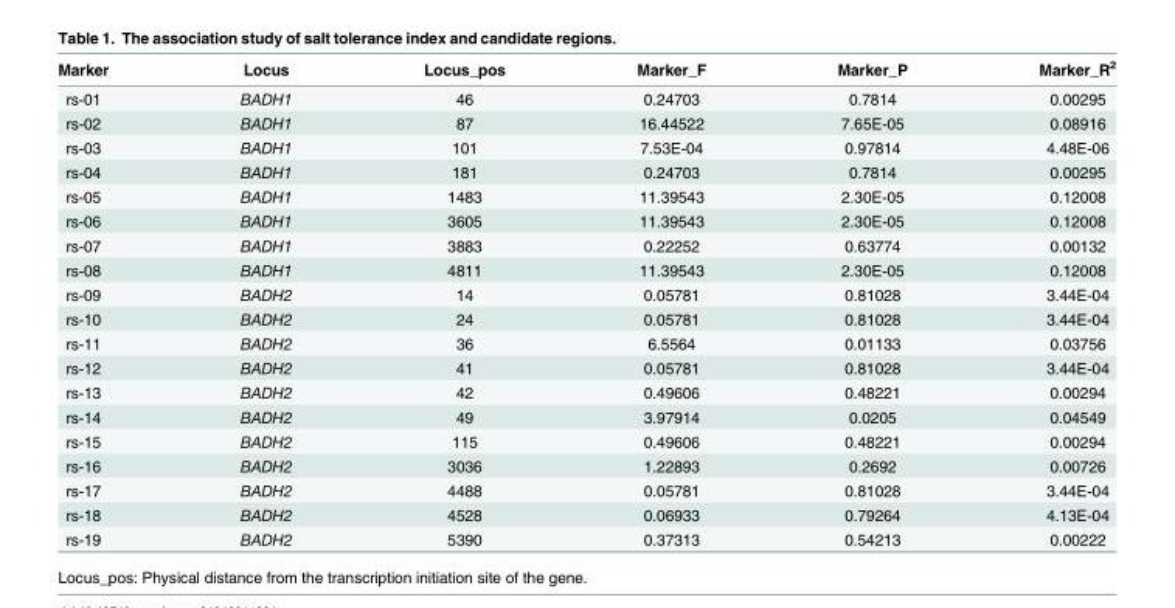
<table><thead><tr><td>Marker</td><td>Locus</td><td>Locus_pos</td><td>Marker_F</td><td>Marker_P</td><td>Marker_R<sup>2</sup></td></tr></thead><tbody><tr><td>rs-01</td><td>BADH1</td><td>46</td><td>0.24703</td><td>0.7814</td><td>0.00295</td></tr><tr><td>rs-02</td><td>BADH1</td><td>87</td><td>16.44522</td><td>7.65E-05</td><td>0.08916</td></tr><tr><td>rs-03</td><td>BADH1</td><td>101</td><td>7.53E-04</td><td>0.97814</td><td>4.48E-06</td></tr><tr><td>rs-04</td><td>BADH1</td><td>181</td><td>0.24703</td><td>0.7814</td><td>0.00295</td></tr><tr><td>rs-05</td><td>BADH1</td><td>1483</td><td>11.39543</td><td>2.30E-05</td><td>0.12008</td></tr><tr><td>rs-06</td><td>BADH1</td><td>3605</td><td>11.39543</td><td>2.30E-05</td><td>0.12008</td></tr><tr><td>rs-07</td><td>BADH1</td><td>3883</td><td>0.22252</td><td>0.63774</td><td>0.00132</td></tr><tr><td>rs-08</td><td>BADH1</td><td>4811</td><td>11.39543</td><td>2.30E-05</td><td>0.12008</td></tr><tr><td>rs-09</td><td>BADH2</td><td>14</td><td>0.05781</td><td>0.81028</td><td>3.44E-04</td></tr><tr><td>rs-10</td><td>BADH2</td><td>24</td><td>0.05781</td><td>0.81028</td><td>3.44E-04</td></tr><tr><td>rs-11</td><td>BADH2</td><td>36</td><td>6.5564</td><td>0.01133</td><td>0.03756</td></tr><tr><td>rs-12</td><td>BADH2</td><td>41</td><td>0.05781</td><td>0.81028</td><td>3.44E-04</td></tr><tr><td>rs-13</td><td>BADH2</td><td>42</td><td>0.49606</td><td>0.48221</td><td>0.00294</td></tr><tr><td>rs-14</td><td>BADH2</td><td>49</td><td>3.97914</td><td>0.0205</td><td>0.04549</td></tr><tr><td>rs-15</td><td>BADH2</td><td>115</td><td>0.49606</td><td>0.48221</td><td>0.00294</td></tr><tr><td>rs-16</td><td>BADH2</td><td>3036</td><td>1.22893</td><td>0.2692</td><td>0.00726</td></tr><tr><td>rs-17</td><td>BADH2</td><td>4488</td><td>0.05781</td><td>0.81028</td><td>3.44E-04</td></tr><tr><td>rs-18</td><td>BADH2</td><td>4528</td><td>0.06933</td><td>0.79264</td><td>4.13E-04</td></tr><tr><td>rs-19</td><td>BADH2</td><td>5390</td><td>0.37313</td><td>0.54213</td><td>0.00222</td></tr></tbody></table>